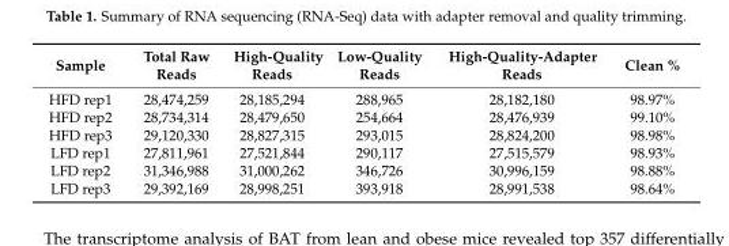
<table><thead><tr><td>Sample</td><td>Total Raw Reads</td><td>High-Quality Reads</td><td>Low-Quality Reads</td><td>High-Quality-Adapter Reads</td><td>Clean %</td></tr></thead><tbody><tr><td>HFD rep1</td><td>28,474,259</td><td>28,185,294</td><td>288,965</td><td>28,182,180</td><td>98.97%</td></tr><tr><td>HFD rep2</td><td>28,734,314</td><td>28,479,650</td><td>254,664</td><td>28,476,939</td><td>99.10%</td></tr><tr><td>HFD rep3</td><td>29,120,330</td><td>28,827,315</td><td>293,015</td><td>28,824,200</td><td>98.98%</td></tr><tr><td>LFD rep1</td><td>27,811,961</td><td>27,521,844</td><td>290,117</td><td>27,515,579</td><td>98.93%</td></tr><tr><td>LFD rep2</td><td>31,346,988</td><td>31,000,262</td><td>346,726</td><td>30,996,159</td><td>98.88%</td></tr><tr><td>LFD rep3</td><td>29,392,169</td><td>28,998,251</td><td>393,918</td><td>28,991,538</td><td>98.64%</td></tr></tbody></table>